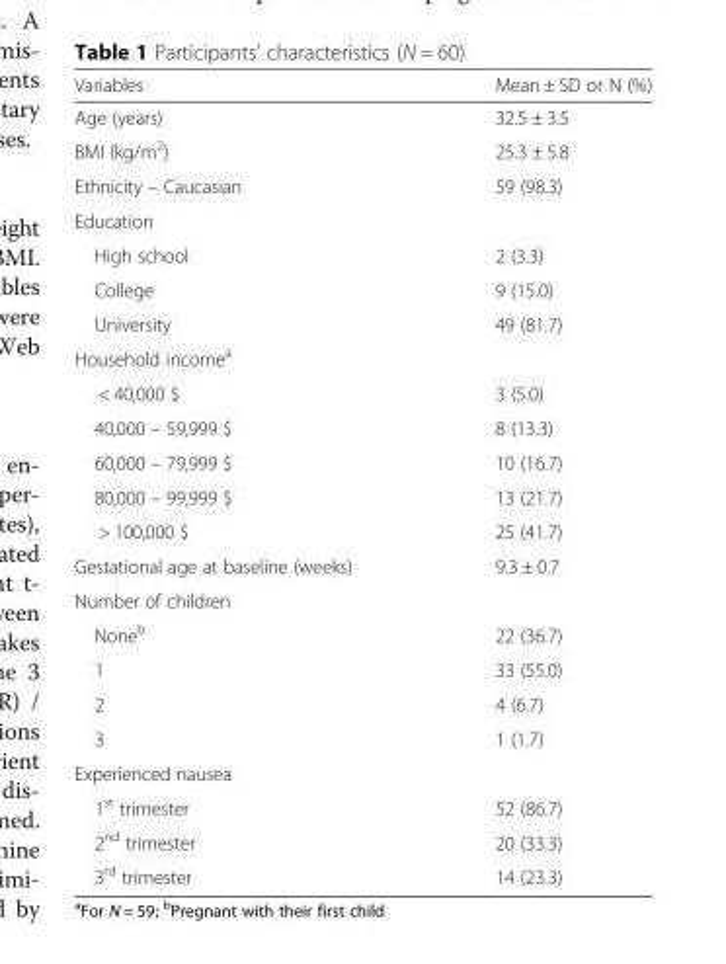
<table><thead><tr><td>Variables</td><td>Mean ± SD or N (%)</td></tr></thead><tbody><tr><td>Age (years)</td><td>32.5 ± 3.5</td></tr><tr><td>BMI (kg/m<sup>2</sup>)</td><td>25.3 ± 5.8</td></tr><tr><td>Ethnicity – Caucasian</td><td>59 (98.3)</td></tr><tr><td colspan="2">Education</td></tr><tr><td>High school</td><td>2 (3.3)</td></tr><tr><td>College</td><td>9 (15.0)</td></tr><tr><td>University</td><td>49 (81.7)</td></tr><tr><td colspan="2">Household income<sup>a</sup></td></tr><tr><td>&lt; 40,000 $</td><td>3 (5.0)</td></tr><tr><td>40,000 – 59,999 $</td><td>8 (13.3)</td></tr><tr><td>60,000 – 79,999 $</td><td>10 (16.7)</td></tr><tr><td>80,000 – 99,999 $</td><td>13 (21.7)</td></tr><tr><td>&gt; 100,000 $</td><td>25 (41.7)</td></tr><tr><td>Gestational age at baseline (weeks)</td><td>9.3 ± 0.7</td></tr><tr><td colspan="2">Number of children</td></tr><tr><td>None<sup>b</sup></td><td>22 (36.7)</td></tr><tr><td>1</td><td>33 (55.0)</td></tr><tr><td>2</td><td>4 (6.7)</td></tr><tr><td>3</td><td>1 (1.7)</td></tr><tr><td colspan="2">Experienced nausea</td></tr><tr><td>1<sup>st</sup> trimester</td><td>52 (86.7)</td></tr><tr><td>2<sup>nd</sup> trimester</td><td>20 (33.3)</td></tr><tr><td>3<sup>rd</sup> trimester</td><td>14 (23.3)</td></tr></tbody></table>